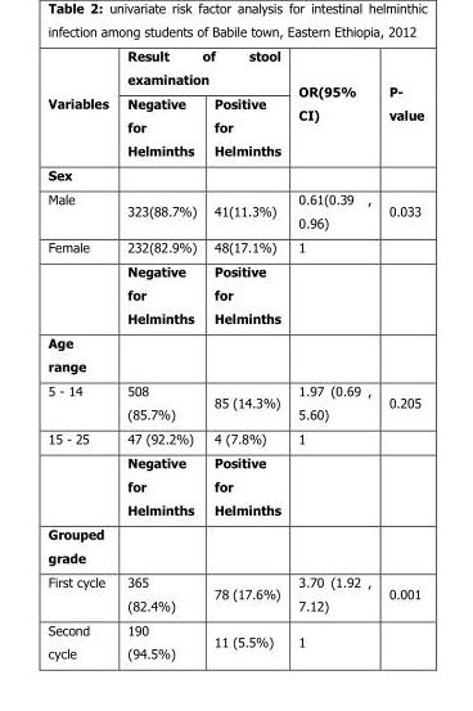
<table><thead><tr><td rowspan="2">Variables</td><td colspan="2">Result of stool examination</td><td rowspan="2">OR(95% CI)</td><td rowspan="2">P- value</td></tr><tr><td>Negative for Helminths</td><td>Positive for Helminths</td></tr></thead><tbody><tr><td colspan="5">Sex</td></tr><tr><td>Male</td><td>323(88.7%)</td><td>41(11.3%)</td><td>0.61(0.39 , 0.96)</td><td>0.033</td></tr><tr><td rowspan="2">Female</td><td>232(82.9%)</td><td>48(17.1%)</td><td>1</td><td></td></tr><tr><td>Negative for Helminths</td><td>Positive for Helminths</td><td></td><td></td></tr><tr><td colspan="5">Age range</td></tr><tr><td>5 - 14</td><td>508 (85.7%)</td><td>85 (14.3%)</td><td>1.97 (0.69 , 5.60)</td><td>0.205</td></tr><tr><td rowspan="2">15 - 25</td><td>47 (92.2%)</td><td>4 (7.8%)</td><td>1</td><td></td></tr><tr><td>Negative for Helminths</td><td>Positive for Helminths</td><td></td><td></td></tr><tr><td colspan="5">Grouped grade</td></tr><tr><td>First cycle</td><td>365 (82.4%)</td><td>78 (17.6%)</td><td>3.70 (1.92 , 7.12)</td><td>0.001</td></tr><tr><td>Second cycle</td><td>190 (94.5%)</td><td>11 (5.5%)</td><td>1</td><td></td></tr></tbody></table>